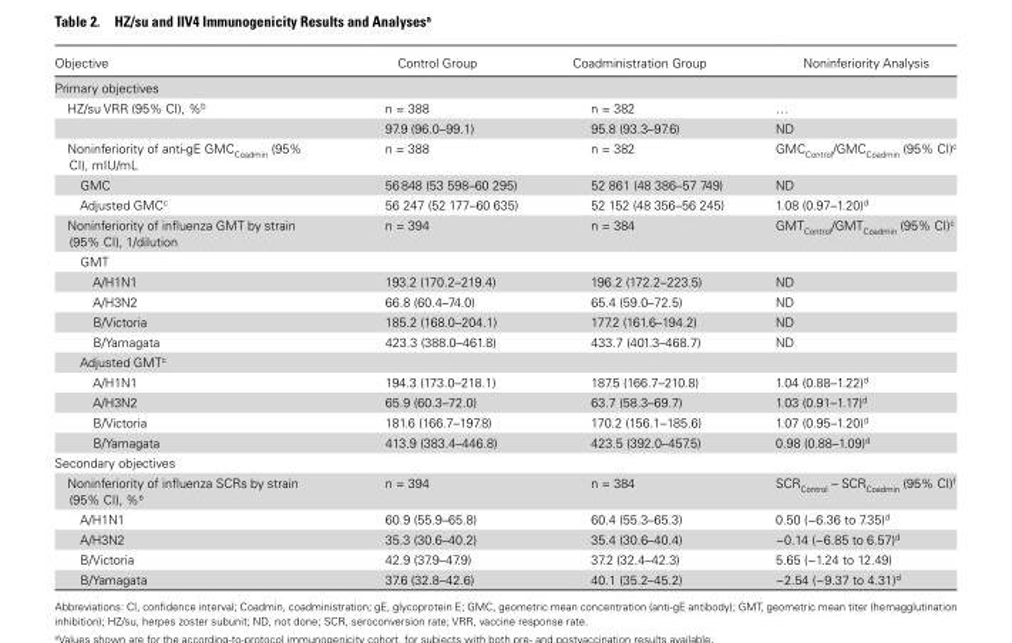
<table><thead><tr><td>Objective</td><td>Control Group</td><td>Coadministration Group</td><td>Noninferiority Analysis</td></tr></thead><tbody><tr><td colspan="4">Primary objectives</td></tr><tr><td rowspan="2">HZ/su VRR (95% CI), %<sup>b</sup></td><td>n = 388</td><td>n = 382</td><td>…</td></tr><tr><td>97.9 (96.0–99.1)</td><td>95.8 (93.3–97.6)</td><td>ND</td></tr><tr><td>Noninferiority of anti-gE GMC<sub>Coadmin</sub> (95% CI), mIU/mL</td><td>n = 388</td><td>n = 382</td><td>GMC<sub>Control</sub>/GMC<sub>Coadmin</sub> (95% CI)<sup>c</sup></td></tr><tr><td>GMC</td><td>56 848 (53 598–60 295)</td><td>52 861 (48 386–57 749)</td><td>ND</td></tr><tr><td>Adjusted GMC<sup>c</sup></td><td>56 247 (52 177–60 635)</td><td>52 152 (48 356–56 245)</td><td>1.08 (0.97–1.20)<sup>d</sup></td></tr><tr><td>Noninferiority of influenza GMT by strain (95% CI), 1/dilution</td><td>n = 394</td><td>n = 384</td><td>GMT<sub>Control</sub>/GMT<sub>Coadmin</sub> (95% CI)<sup>c</sup></td></tr><tr><td colspan="4">GMT</td></tr><tr><td>A/H1N1</td><td>193.2 (170.2–219.4)</td><td>196.2 (172.2–223.5)</td><td>ND</td></tr><tr><td>A/H3N2</td><td>66.8 (60.4–74.0)</td><td>65.4 (59.0–72.5)</td><td>ND</td></tr><tr><td>B/Victoria</td><td>185.2 (168.0–204.1)</td><td>177.2 (161.6–194.2)</td><td>ND</td></tr><tr><td>B/Yamagata</td><td>423.3 (388.0–461.8)</td><td>433.7 (401.3–468.7)</td><td>ND</td></tr><tr><td colspan="4">Adjusted GMT<sup>c</sup></td></tr><tr><td>A/H1N1</td><td>194.3 (173.0–218.1)</td><td>187.5 (166.7–210.8)</td><td>1.04 (0.88–1.22)<sup>d</sup></td></tr><tr><td>A/H3N2</td><td>65.9 (60.3–72.0)</td><td>63.7 (58.3–69.7)</td><td>1.03 (0.91–1.17)<sup>d</sup></td></tr><tr><td>B/Victoria</td><td>181.6 (166.7–197.8)</td><td>170.2 (156.1–185.6)</td><td>1.07 (0.95–1.20)<sup>d</sup></td></tr><tr><td>B/Yamagata</td><td>413.9 (383.4–446.8)</td><td>423.5 (392.0–457.5)</td><td>0.98 (0.88–1.09)<sup>d</sup></td></tr><tr><td colspan="4">Secondary objectives</td></tr><tr><td>Noninferiority of influenza SCRs by strain (95% CI), %<sup>e</sup></td><td>n = 394</td><td>n = 384</td><td>SCR<sub>Control</sub> – SCR<sub>Coadmin</sub> (95% CI)<sup>f</sup></td></tr><tr><td>A/H1N1</td><td>60.9 (55.9–65.8)</td><td>60.4 (55.3–65.3)</td><td>0.50 (−6.36 to 7.35)<sup>d</sup></td></tr><tr><td>A/H3N2</td><td>35.3 (30.6–40.2)</td><td>35.4 (30.6–40.4)</td><td>−0.14 (−6.85 to 6.57)<sup>d</sup></td></tr><tr><td>B/Victoria</td><td>42.9 (37.9–47.9)</td><td>37.2 (32.4–42.3)</td><td>5.65 (−1.24 to 12.49)</td></tr><tr><td>B/Yamagata</td><td>37.6 (32.8–42.6)</td><td>40.1 (35.2–45.2)</td><td>−2.54 (−9.37 to 4.31)<sup>d</sup></td></tr></tbody></table>